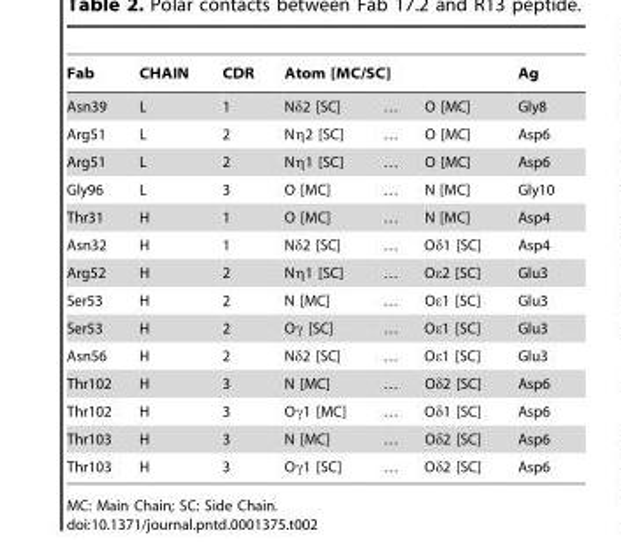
<table><thead><tr><td rowspan="2">Fab Asn39</td><td rowspan="2">CHAIN L</td><td rowspan="2">CDR 1</td><td colspan="3">Atom [MC/SC]</td><td rowspan="2">Ag Gly8</td></tr><tr><td>Nδ2 [SC]</td><td>…</td><td>O [MC]</td></tr></thead><tbody><tr><td>Arg51</td><td>L</td><td>2</td><td>Nη2 [SC]</td><td>…</td><td>O [MC]</td><td>Asp6</td></tr><tr><td>Arg51</td><td>L</td><td>2</td><td>Nη1 [SC]</td><td>…</td><td>O [MC]</td><td>Asp6</td></tr><tr><td>Gly96</td><td>L</td><td>3</td><td>O [MC]</td><td>…</td><td>N [MC]</td><td>Gly10</td></tr><tr><td>Thr31</td><td>H</td><td>1</td><td>O [MC]</td><td>…</td><td>N [MC]</td><td>Asp4</td></tr><tr><td>Asn32</td><td>H</td><td>1</td><td>Nδ2 [SC]</td><td>…</td><td>Oδ1 [SC]</td><td>Asp4</td></tr><tr><td>Arg52</td><td>H</td><td>2</td><td>Nη1 [SC]</td><td>…</td><td>Oε2 [SC]</td><td>Glu3</td></tr><tr><td>Ser53</td><td>H</td><td>2</td><td>N [MC]</td><td>…</td><td>Oε1 [SC]</td><td>Glu3</td></tr><tr><td>Ser53</td><td>H</td><td>2</td><td>Oγ [SC]</td><td>…</td><td>Oε1 [SC]</td><td>Glu3</td></tr><tr><td>Asn56</td><td>H</td><td>2</td><td>Nδ2 [SC]</td><td>…</td><td>Oε1 [SC]</td><td>Glu3</td></tr><tr><td>Thr102</td><td>H</td><td>3</td><td>N [MC]</td><td>…</td><td>Oδ2 [SC]</td><td>Asp6</td></tr><tr><td>Thr102</td><td>H</td><td>3</td><td>Oγ1 [MC]</td><td>…</td><td>Oδ1 [SC]</td><td>Asp6</td></tr><tr><td>Thr103</td><td>H</td><td>3</td><td>N [MC]</td><td>…</td><td>Oδ2 [SC]</td><td>Asp6</td></tr><tr><td>Thr103</td><td>H</td><td>3</td><td>Oγ1 [SC]</td><td>…</td><td>Oδ2 [SC]</td><td>Asp6</td></tr></tbody></table>